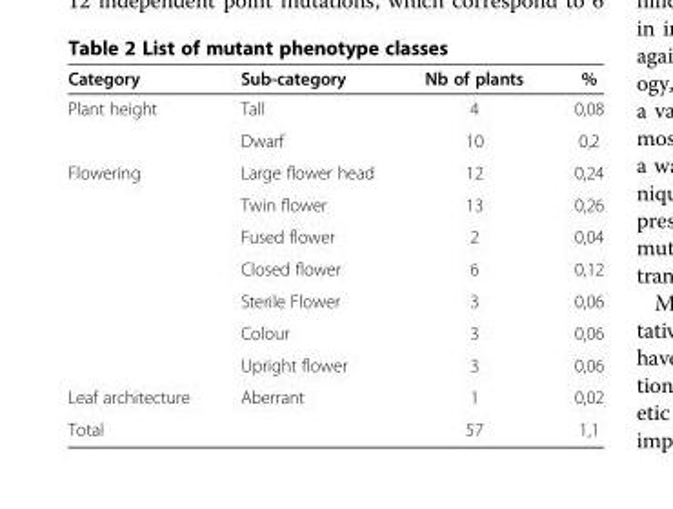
<table><thead><tr><td>Category</td><td>Sub-category</td><td>Nb of plants</td><td>%</td></tr></thead><tbody><tr><td rowspan="2">Plant height</td><td>Tall</td><td>4</td><td>0,08</td></tr><tr><td>Dwarf</td><td>10</td><td>0,2</td></tr><tr><td rowspan="7">Flowering</td><td>Large flower head</td><td>12</td><td>0,24</td></tr><tr><td>Twin flower</td><td>13</td><td>0,26</td></tr><tr><td>Fused flower</td><td>2</td><td>0,04</td></tr><tr><td>Closed flower</td><td>6</td><td>0,12</td></tr><tr><td>Sterile Flower</td><td>3</td><td>0,06</td></tr><tr><td>Colour</td><td>3</td><td>0,06</td></tr><tr><td>Upright flower</td><td>3</td><td>0,06</td></tr><tr><td>Leaf architecture</td><td>Aberrant</td><td>1</td><td>0,02</td></tr><tr><td>Total</td><td></td><td>57</td><td>1,1</td></tr></tbody></table>